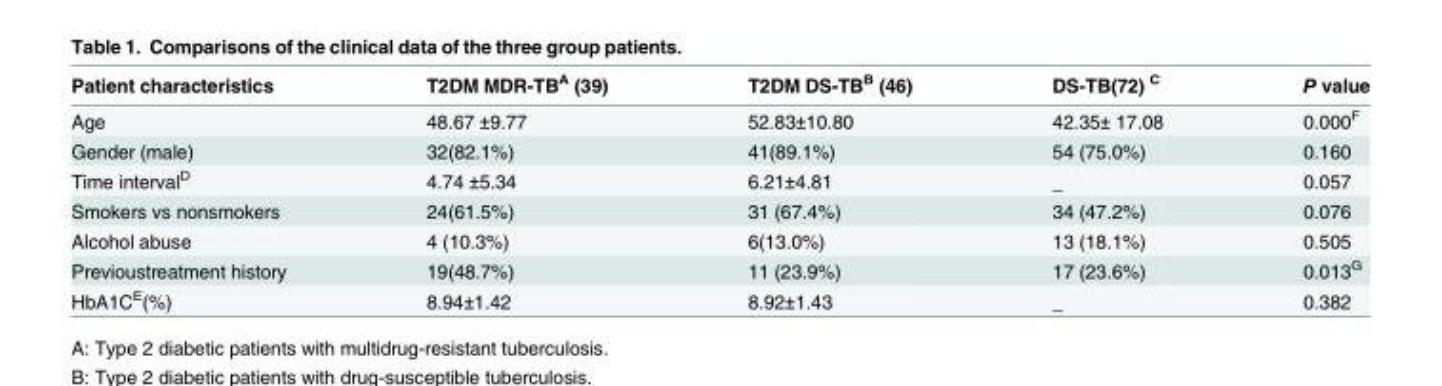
<table><thead><tr><td>Patient characteristics</td><td>T2DM MDR-TB<sup>A</sup> (39)</td><td>T2DM DS-TB<sup>B</sup> (46)</td><td>DS-TB(72) <sup>C</sup></td><td>P value</td></tr></thead><tbody><tr><td>Age</td><td>48.67 ±9.77</td><td>52.83±10.80</td><td>42.35± 17.08</td><td>0.000<sup>F</sup></td></tr><tr><td>Gender (male)</td><td>32(82.1%)</td><td>41(89.1%)</td><td>54 (75.0%)</td><td>0.160</td></tr><tr><td>Time interval<sup>D</sup></td><td>4.74 ±5.34</td><td>6.21±4.81</td><td>_</td><td>0.057</td></tr><tr><td>Smokers vs nonsmokers</td><td>24(61.5%)</td><td>31 (67.4%)</td><td>34 (47.2%)</td><td>0.076</td></tr><tr><td>Alcohol abuse</td><td>4 (10.3%)</td><td>6(13.0%)</td><td>13 (18.1%)</td><td>0.505</td></tr><tr><td>Previoustreatment history</td><td>19(48.7%)</td><td>11 (23.9%)</td><td>17 (23.6%)</td><td>0.013<sup>G</sup></td></tr><tr><td>HbA1C<sup>E</sup>(%)</td><td>8.94±1.42</td><td>8.92±1.43</td><td>_</td><td>0.382</td></tr></tbody></table>